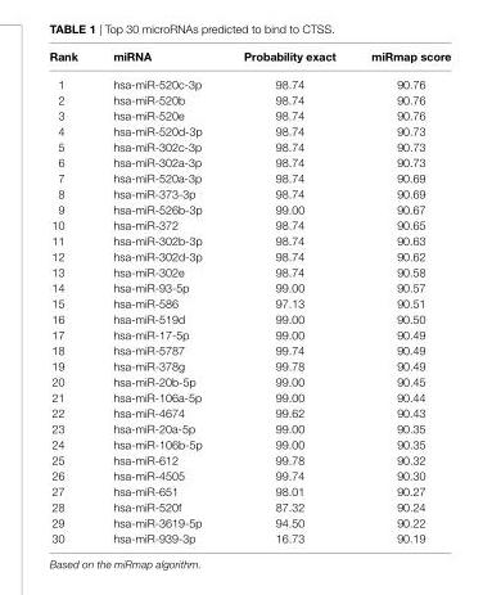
<table><thead><tr><td>rank</td><td>mirna</td><td>Probability exact</td><td>mirmap score</td></tr></thead><tbody><tr><td>1</td><td>hsa-miR-520c-3p</td><td>98.74</td><td>90.76</td></tr><tr><td>2</td><td>hsa-miR-520b</td><td>98.74</td><td>90.76</td></tr><tr><td>3</td><td>hsa-miR-520e</td><td>98.74</td><td>90.76</td></tr><tr><td>4</td><td>hsa-miR-520d-3p</td><td>98.74</td><td>90.73</td></tr><tr><td>5</td><td>hsa-miR-302c-3p</td><td>98.74</td><td>90.73</td></tr><tr><td>6</td><td>hsa-miR-302a-3p</td><td>98.74</td><td>90.73</td></tr><tr><td>7</td><td>hsa-miR-520a-3p</td><td>98.74</td><td>90.69</td></tr><tr><td>8</td><td>hsa-miR-373-3p</td><td>98.74</td><td>90.69</td></tr><tr><td>9</td><td>hsa-miR-526b-3p</td><td>99.00</td><td>90.67</td></tr><tr><td>10</td><td>hsa-miR-372</td><td>98.74</td><td>90.65</td></tr><tr><td>11</td><td>hsa-miR-302b-3p</td><td>98.74</td><td>90.63</td></tr><tr><td>12</td><td>hsa-miR-302d-3p</td><td>98.74</td><td>90.62</td></tr><tr><td>13</td><td>hsa-miR-302e</td><td>98.74</td><td>90.58</td></tr><tr><td>14</td><td>hsa-miR-93-5p</td><td>99.00</td><td>90.57</td></tr><tr><td>15</td><td>hsa-miR-586</td><td>97.13</td><td>90.51</td></tr><tr><td>16</td><td>hsa-miR-519d</td><td>99.00</td><td>90.50</td></tr><tr><td>17</td><td>hsa-miR-17-5p</td><td>99.00</td><td>90.49</td></tr><tr><td>18</td><td>hsa-miR-5787</td><td>99.74</td><td>90.49</td></tr><tr><td>19</td><td>hsa-miR-378g</td><td>99.78</td><td>90.49</td></tr><tr><td>20</td><td>hsa-miR-20b-5p</td><td>99.00</td><td>90.45</td></tr><tr><td>21</td><td>hsa-miR-106a-5p</td><td>99.00</td><td>90.44</td></tr><tr><td>22</td><td>hsa-miR-4674</td><td>99.62</td><td>90.43</td></tr><tr><td>23</td><td>hsa-miR-20a-5p</td><td>99.00</td><td>90.35</td></tr><tr><td>24</td><td>hsa-miR-106b-5p</td><td>99.00</td><td>90.35</td></tr><tr><td>25</td><td>hsa-miR-612</td><td>99.78</td><td>90.32</td></tr><tr><td>26</td><td>hsa-miR-4505</td><td>99.74</td><td>90.30</td></tr><tr><td>27</td><td>hsa-miR-651</td><td>98.01</td><td>90.27</td></tr><tr><td>28</td><td>hsa-miR-520f</td><td>87.32</td><td>90.24</td></tr><tr><td>29</td><td>hsa-miR-3619-5p</td><td>94.50</td><td>90.22</td></tr><tr><td>30</td><td>hsa-miR-939-3p</td><td>16.73</td><td>90.19</td></tr></tbody></table>